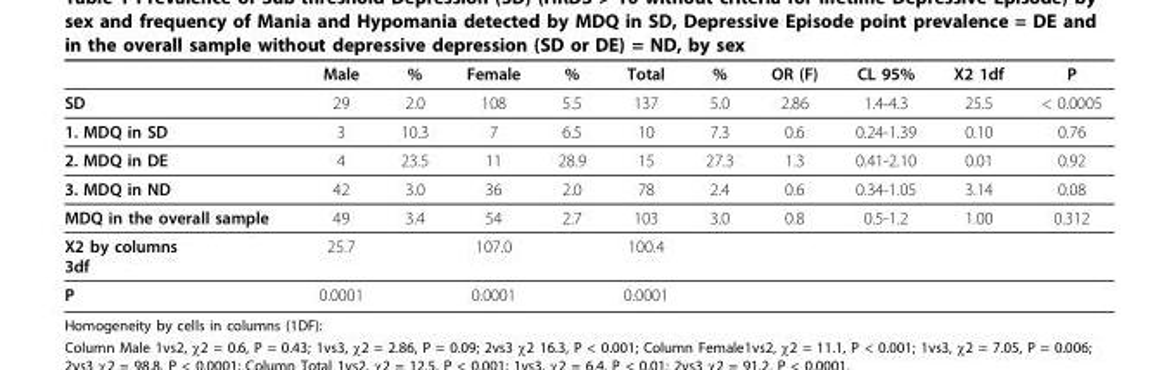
<table><thead><tr><td></td><td>Male</td><td>%</td><td>Female</td><td>%</td><td>Total</td><td>%</td><td>OR (F)</td><td>CL 95%</td><td>Χ2 1df</td><td>P</td></tr></thead><tbody><tr><td>SD</td><td>29</td><td>2.0</td><td>108</td><td>5.5</td><td>137</td><td>5.0</td><td>2.86</td><td>1.4-4.3</td><td>25.5</td><td>&lt; 0.0005</td></tr><tr><td>1. MDQ in SD</td><td>3</td><td>10.3</td><td>7</td><td>6.5</td><td>10</td><td>7.3</td><td>0.6</td><td>0.24-1.39</td><td>0.10</td><td>0.76</td></tr><tr><td>2. MDQ in DE</td><td>4</td><td>23.5</td><td>11</td><td>28.9</td><td>15</td><td>27.3</td><td>1.3</td><td>0.41-2.10</td><td>0.01</td><td>0.92</td></tr><tr><td>3. MDQ in ND</td><td>42</td><td>3.0</td><td>36</td><td>2.0</td><td>78</td><td>2.4</td><td>0.6</td><td>0.34-1.05</td><td>3.14</td><td>0.08</td></tr><tr><td>MDQ in the overall sample</td><td>49</td><td>3.4</td><td>54</td><td>2.7</td><td>103</td><td>3.0</td><td>0.8</td><td>0.5-1.2</td><td>1.00</td><td>0.312</td></tr><tr><td>Χ2 by columns 3df</td><td>25.7</td><td></td><td>107.0</td><td></td><td>100.4</td><td></td><td></td><td></td><td></td><td></td></tr><tr><td>P</td><td>0.0001</td><td></td><td>0.0001</td><td></td><td>0.0001</td><td></td><td></td><td></td><td></td><td></td></tr></tbody></table>